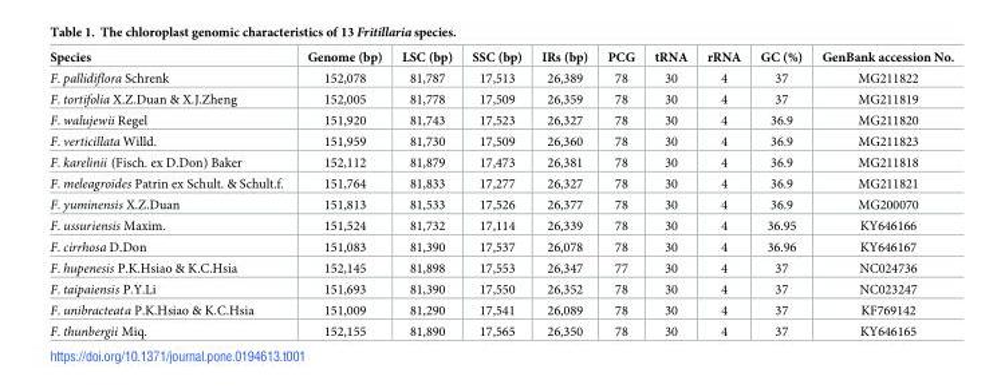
<table><thead><tr><td>Species</td><td>Genome (bp)</td><td>LSC (bp)</td><td>SSC (bp)</td><td>IRs (bp)</td><td>PCG</td><td>tRNA</td><td>rRNA</td><td>GC (%)</td><td>GenBank accession No.</td></tr></thead><tbody><tr><td>F. pallidiflora Schrenk</td><td>152,078</td><td>81,787</td><td>17,513</td><td>26,389</td><td>78</td><td>30</td><td>4</td><td>37</td><td>MG211822</td></tr><tr><td>F. tortifolia X.Z.Duan &amp; X.J.Zheng</td><td>152,005</td><td>81,778</td><td>17,509</td><td>26,359</td><td>78</td><td>30</td><td>4</td><td>37</td><td>MG211819</td></tr><tr><td>F. walujewii Regel</td><td>151,920</td><td>81,743</td><td>17,523</td><td>26,327</td><td>78</td><td>30</td><td>4</td><td>36.9</td><td>MG211820</td></tr><tr><td>F. verticillata Willd.</td><td>151,959</td><td>81,730</td><td>17,509</td><td>26,360</td><td>78</td><td>30</td><td>4</td><td>36.9</td><td>MG211823</td></tr><tr><td>F. karelinii (Fisch. ex D.Don) Baker</td><td>152,112</td><td>81,879</td><td>17,473</td><td>26,381</td><td>78</td><td>30</td><td>4</td><td>36.9</td><td>MG211818</td></tr><tr><td>F. meleagroides Patrin ex Schult. &amp; Schult.f.</td><td>151,764</td><td>81,833</td><td>17,277</td><td>26,327</td><td>78</td><td>30</td><td>4</td><td>36.9</td><td>MG211821</td></tr><tr><td>F. yuminensis X.Z.Duan</td><td>151,813</td><td>81,533</td><td>17,526</td><td>26,377</td><td>78</td><td>30</td><td>4</td><td>36.9</td><td>MG200070</td></tr><tr><td>F. ussuriensis Maxim.</td><td>151,524</td><td>81,732</td><td>17,114</td><td>26,339</td><td>78</td><td>30</td><td>4</td><td>36.95</td><td>KY646166</td></tr><tr><td>F. cirrhosa D.Don</td><td>151,083</td><td>81,390</td><td>17,537</td><td>26,078</td><td>78</td><td>30</td><td>4</td><td>36.96</td><td>KY646167</td></tr><tr><td>F. hupenesis P.K.Hsiao &amp; K.C.Hsia</td><td>152,145</td><td>81,898</td><td>17,553</td><td>26,347</td><td>77</td><td>30</td><td>4</td><td>37</td><td>NC024736</td></tr><tr><td>F. taipaiensis P.Y.Li</td><td>151,693</td><td>81,390</td><td>17,550</td><td>26,352</td><td>78</td><td>30</td><td>4</td><td>37</td><td>NC023247</td></tr><tr><td>F. unibracteata P.K.Hsiao &amp; K.C.Hsia</td><td>151,009</td><td>81,290</td><td>17,541</td><td>26,089</td><td>78</td><td>30</td><td>4</td><td>37</td><td>KF769142</td></tr><tr><td>F. thunbergii Miq.</td><td>152,155</td><td>81,890</td><td>17,565</td><td>26,350</td><td>78</td><td>30</td><td>4</td><td>37</td><td>KY646165</td></tr></tbody></table>